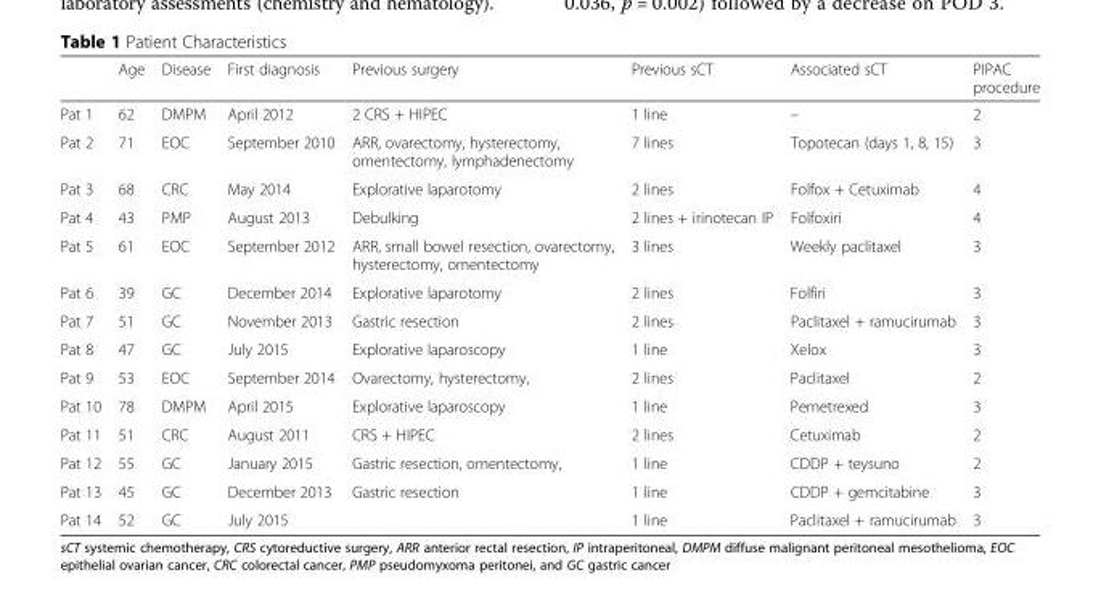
<table><thead><tr><td></td><td>Age</td><td>Disease</td><td>First diagnosis</td><td>Previous surgery</td><td>Previous sCT</td><td>Associated sCT</td><td>PIPAC procedure</td></tr></thead><tbody><tr><td>Pat 1</td><td>62</td><td>DMPM</td><td>April 2012</td><td>2 CRS + HIPEC</td><td>1 line</td><td>–</td><td>2</td></tr><tr><td>Pat 2</td><td>71</td><td>EOC</td><td>September 2010</td><td>ARR, ovarectomy, hysterectomy, omentectomy, lymphadenectomy</td><td>7 lines</td><td>Topotecan (days 1, 8, 15)</td><td>3</td></tr><tr><td>Pat 3</td><td>68</td><td>CRC</td><td>May 2014</td><td>Explorative laparotomy</td><td>2 lines</td><td>Folfox + Cetuximab</td><td>4</td></tr><tr><td>Pat 4</td><td>43</td><td>PMP</td><td>August 2013</td><td>Debulking</td><td>2 lines + irinotecan IP</td><td>Folfoxiri</td><td>4</td></tr><tr><td>Pat 5</td><td>61</td><td>EOC</td><td>September 2012</td><td>ARR, small bowel resection, ovarectomy, hysterectomy, omentectomy</td><td>3 lines</td><td>Weekly paclitaxel</td><td>3</td></tr><tr><td>Pat 6</td><td>39</td><td>GC</td><td>December 2014</td><td>Explorative laparotomy</td><td>2 lines</td><td>Folfiri</td><td>3</td></tr><tr><td>Pat 7</td><td>51</td><td>GC</td><td>November 2013</td><td>Gastric resection</td><td>2 lines</td><td>Paclitaxel + ramucirumab</td><td>3</td></tr><tr><td>Pat 8</td><td>47</td><td>GC</td><td>July 2015</td><td>Explorative laparoscopy</td><td>1 line</td><td>Xelox</td><td>3</td></tr><tr><td>Pat 9</td><td>53</td><td>EOC</td><td>September 2014</td><td>Ovarectomy, hysterectomy,</td><td>2 lines</td><td>Paclitaxel</td><td>2</td></tr><tr><td>Pat 10</td><td>78</td><td>DMPM</td><td>April 2015</td><td>Explorative laparoscopy</td><td>1 line</td><td>Pemetrexed</td><td>3</td></tr><tr><td>Pat 11</td><td>51</td><td>CRC</td><td>August 2011</td><td>CRS + HIPEC</td><td>2 lines</td><td>Cetuximab</td><td>2</td></tr><tr><td>Pat 12</td><td>55</td><td>GC</td><td>January 2015</td><td>Gastric resection, omentectomy,</td><td>1 line</td><td>CDDP + teysuno</td><td>2</td></tr><tr><td>Pat 13</td><td>45</td><td>GC</td><td>December 2013</td><td>Gastric resection</td><td>1 line</td><td>CDDP + gemcitabine</td><td>3</td></tr><tr><td>Pat 14</td><td>52</td><td>GC</td><td>July 2015</td><td></td><td>1 line</td><td>Paclitaxel + ramucirumab</td><td>3</td></tr></tbody></table>